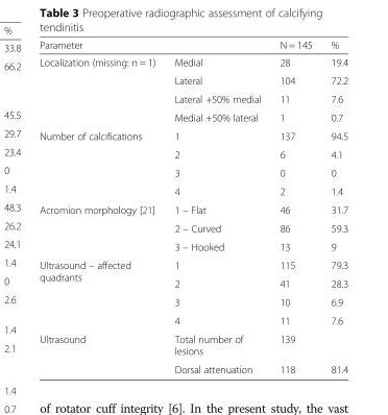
<table><thead><tr><td>Parameter</td><td></td><td>N = 145</td><td>%</td></tr></thead><tbody><tr><td rowspan="4">Localization (missing: n = 1)</td><td>Medial</td><td>28</td><td>19.4</td></tr><tr><td>Lateral</td><td>104</td><td>72.2</td></tr><tr><td>Lateral +50% medial</td><td>11</td><td>7.6</td></tr><tr><td>Medial +50% lateral</td><td>1</td><td>0.7</td></tr><tr><td rowspan="4">Number of calcifications</td><td>1</td><td>137</td><td>94.5</td></tr><tr><td>2</td><td>6</td><td>4.1</td></tr><tr><td>3</td><td>0</td><td>0</td></tr><tr><td>4</td><td>2</td><td>1.4</td></tr><tr><td rowspan="3">Acromion morphology [21]</td><td>1 – Flat</td><td>46</td><td>31.7</td></tr><tr><td>2 – Curved</td><td>86</td><td>59.3</td></tr><tr><td>3 – Hooked</td><td>13</td><td>9</td></tr><tr><td rowspan="4">Ultrasound – affected quadrants</td><td>1</td><td>115</td><td>79.3</td></tr><tr><td>2</td><td>41</td><td>28.3</td></tr><tr><td>3</td><td>10</td><td>6.9</td></tr><tr><td>4</td><td>11</td><td>7.6</td></tr><tr><td rowspan="2">Ultrasound</td><td>Total number of lesions</td><td>139</td><td></td></tr><tr><td>Dorsal attenuation</td><td>118</td><td>81.4</td></tr></tbody></table>